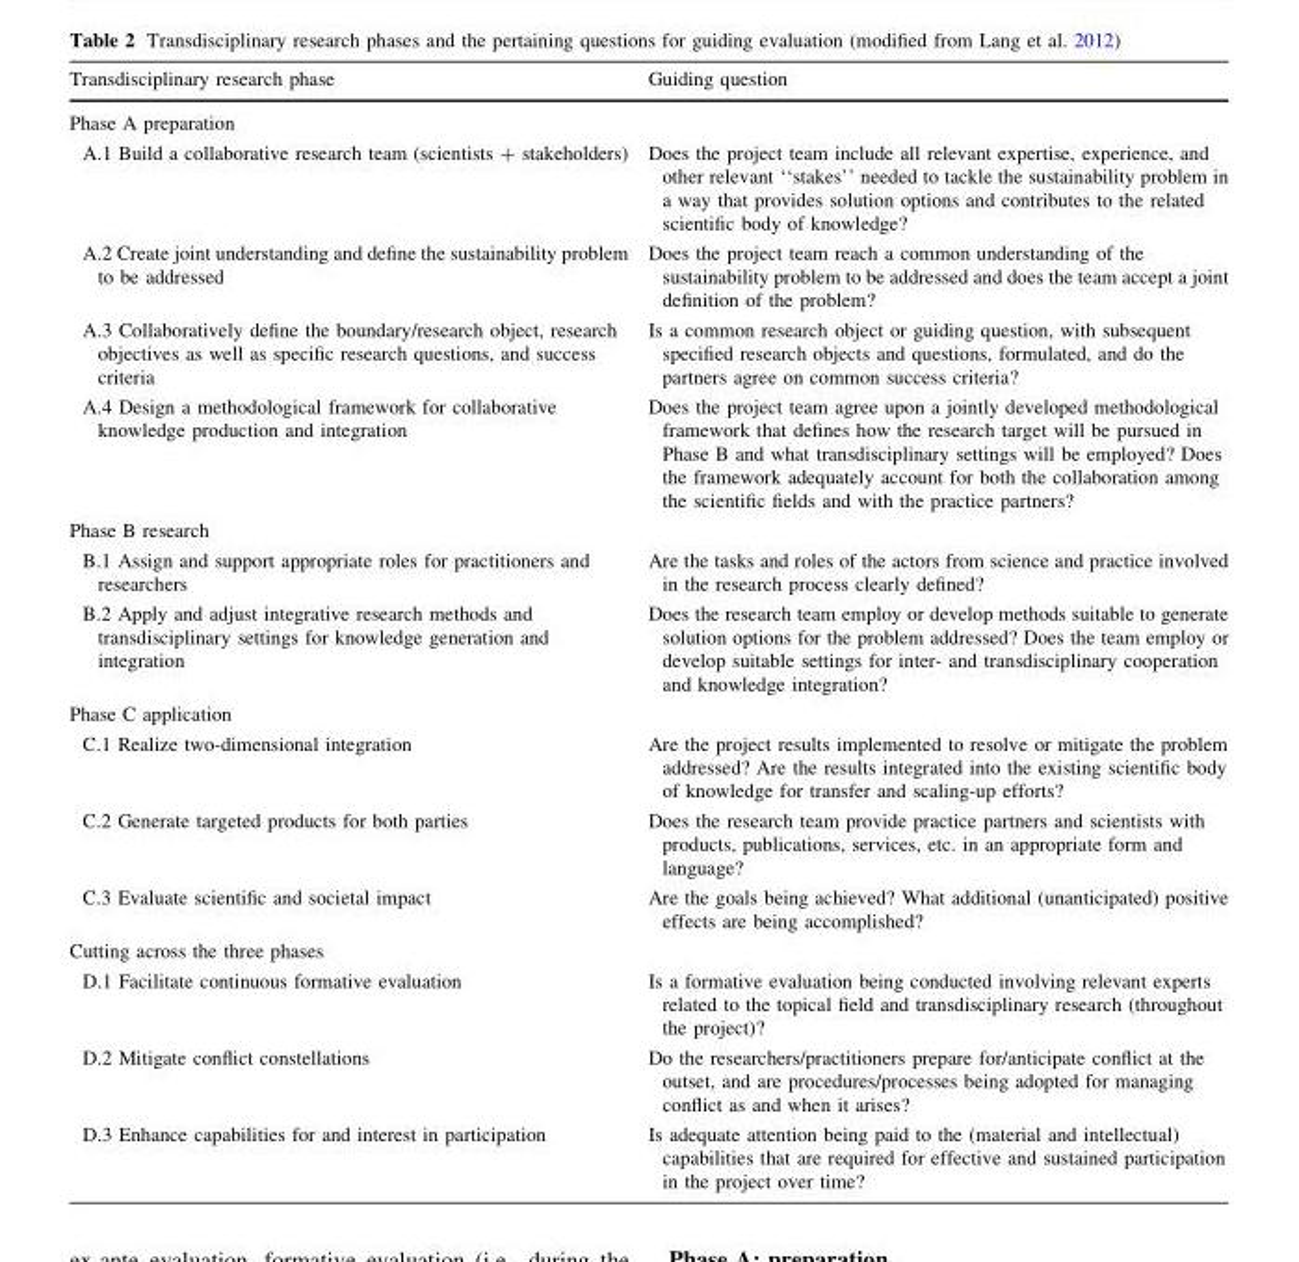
<table><thead><tr><td>Transdisciplinary research phase</td><td>Guiding question</td></tr></thead><tbody><tr><td colspan="2">Phase A preparation</td></tr><tr><td>A.1 Build a collaborative research team (scientists + stakeholders)</td><td>Does the project team include all relevant expertise, experience, and other relevant ‘‘stakes’’ needed to tackle the sustainability problem in a way that provides solution options and contributes to the related scientific body of knowledge?</td></tr><tr><td>A.2 Create joint understanding and define the sustainability problem to be addressed</td><td>Does the project team reach a common understanding of the sustainability problem to be addressed and does the team accept a joint definition of the problem?</td></tr><tr><td>A.3 Collaboratively define the boundary/research object, research objectives as well as specific research questions, and success criteria</td><td>Is a common research object or guiding question, with subsequent specified research objects and questions, formulated, and do the partners agree on common success criteria?</td></tr><tr><td>A.4 Design a methodological framework for collaborative knowledge production and integration</td><td>Does the project team agree upon a jointly developed methodological framework that defines how the research target will be pursued in Phase B and what transdisciplinary settings will be employed? Does the framework adequately account for both the collaboration among the scientific fields and with the practice partners?</td></tr><tr><td colspan="2">Phase B research</td></tr><tr><td>B.1 Assign and support appropriate roles for practitioners and researchers</td><td>Are the tasks and roles of the actors from science and practice involved in the research process clearly defined?</td></tr><tr><td>B.2 Apply and adjust integrative research methods and transdisciplinary settings for knowledge generation and integration</td><td>Does the research team employ or develop methods suitable to generate solution options for the problem addressed? Does the team employ or develop suitable settings for inter- and transdisciplinary cooperation and knowledge integration?</td></tr><tr><td colspan="2">Phase C application</td></tr><tr><td>C.1 Realize two-dimensional integration</td><td>Are the project results implemented to resolve or mitigate the problem addressed? Are the results integrated into the existing scientific body of knowledge for transfer and scaling-up efforts?</td></tr><tr><td>C.2 Generate targeted products for both parties</td><td>Does the research team provide practice partners and scientists with products, publications, services, etc. in an appropriate form and language?</td></tr><tr><td>C.3 Evaluate scientific and societal impact</td><td>Are the goals being achieved? What additional (unanticipated) positive effects are being accomplished?</td></tr><tr><td colspan="2">Cutting across the three phases</td></tr><tr><td>D.1 Facilitate continuous formative evaluation</td><td>Is a formative evaluation being conducted involving relevant experts related to the topical field and transdisciplinary research (throughout the project)?</td></tr><tr><td>D.2 Mitigate conflict constellations</td><td>Do the researchers/practitioners prepare for/anticipate conflict at the outset, and are procedures/processes being adopted for managing conflict as and when it arises?</td></tr><tr><td>D.3 Enhance capabilities for and interest in participation</td><td>Is adequate attention being paid to the (material and intellectual) capabilities that are required for effective and sustained participation in the project over time?</td></tr></tbody></table>